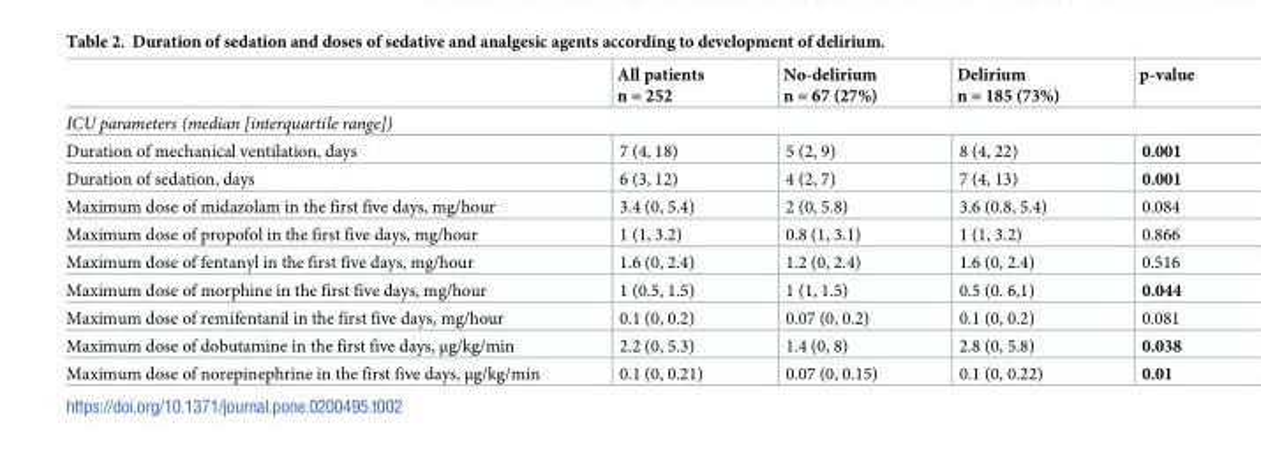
<table><thead><tr><td></td><td>All patients n = 252</td><td>No-delirium n = 67 (27%)</td><td>Delirium n = 185 (73%)</td><td>p-value</td></tr></thead><tbody><tr><td colspan="5">ICU parameters (median [interquartile range])</td></tr><tr><td>Duration of mechanical ventilation, days</td><td>7 (4, 18)</td><td>5 (2, 9)</td><td>8 (4, 22)</td><td>0.001</td></tr><tr><td>Duration of sedation, days</td><td>6 (3, 12)</td><td>4 (2, 7)</td><td>7 (4, 13)</td><td>0.001</td></tr><tr><td>Maximum dose of midazolam in the first five days, mg/hour</td><td>3.4 (0, 5.4)</td><td>2 (0, 5.8)</td><td>3.6 (0.8, 5.4)</td><td>0.084</td></tr><tr><td>Maximum dose of propofol in the first five days, mg/hour</td><td>1 (1, 3.2)</td><td>0.8 (1, 3.1)</td><td>1 (1, 3.2)</td><td>0.866</td></tr><tr><td>Maximum dose of fentanyl in the first five days, mg/hour</td><td>1.6 (0, 2.4)</td><td>1.2 (0, 2.4)</td><td>1.6 (0, 2.4)</td><td>0.516</td></tr><tr><td>Maximum dose of morphine in the first five days, mg/hour</td><td>1 (0.5, 1.5)</td><td>1 (1, 1.5)</td><td>0.5 (0. 6,1)</td><td>0.044</td></tr><tr><td>Maximum dose of remifentanil in the first five days, mg/hour</td><td>0.1 (0, 0.2)</td><td>0.07 (0, 0.2)</td><td>0.1 (0, 0.2)</td><td>0.081</td></tr><tr><td>Maximum dose of dobutamine in the first five days, μg/kg/min</td><td>2.2 (0, 5.3)</td><td>1.4 (0, 8)</td><td>2.8 (0, 5.8)</td><td>0.038</td></tr><tr><td>Maximum dose of norepinephrine in the first five days, μg/kg/min</td><td>0.1 (0, 0.21)</td><td>0.07 (0, 0.15)</td><td>0.1 (0, 0.22)</td><td>0.01</td></tr></tbody></table>